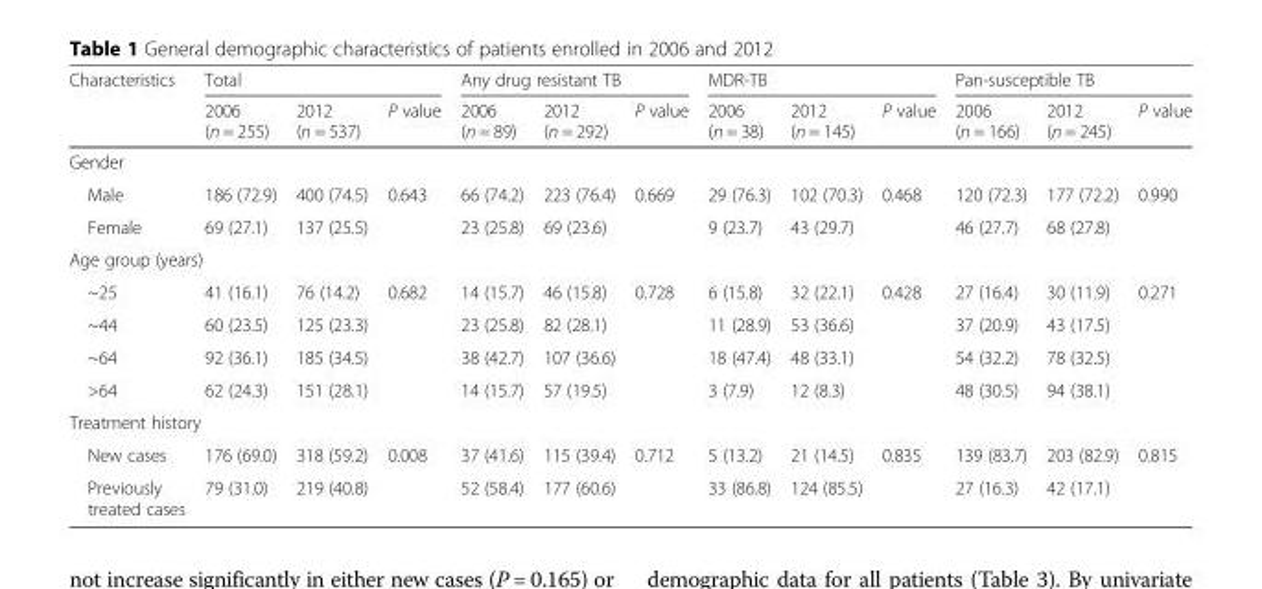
<table><thead><tr><td rowspan="2">Characteristics</td><td colspan="3">Total</td><td colspan="3">Any drug resistant TB</td><td colspan="3">MDR-TB</td><td colspan="3">Pan-susceptible TB</td></tr><tr><td>2006 (n = 255)</td><td>2012 (n = 537)</td><td>P value</td><td>2006 (n = 89)</td><td>2012 (n = 292)</td><td>P value</td><td>2006 (n = 38)</td><td>2012 (n = 145)</td><td>P value</td><td>2006 (n = 166)</td><td>2012 (n = 245)</td><td>P value</td></tr></thead><tbody><tr><td colspan="13">Gender</td></tr><tr><td>Male</td><td>186 (72.9)</td><td>400 (74.5)</td><td rowspan="2">0.643</td><td>66 (74.2)</td><td>223 (76.4)</td><td rowspan="2">0.669</td><td>29 (76.3)</td><td>102 (70.3)</td><td rowspan="2">0.468</td><td>120 (72.3)</td><td>177 (72.2)</td><td rowspan="2">0.990</td></tr><tr><td>Female</td><td>69 (27.1)</td><td>137 (25.5)</td><td>23 (25.8)</td><td>69 (23.6)</td><td>9 (23.7)</td><td>43 (29.7)</td><td>46 (27.7)</td><td>68 (27.8)</td></tr><tr><td colspan="13">Age group (years)</td></tr><tr><td>~25</td><td>41 (16.1)</td><td>76 (14.2)</td><td rowspan="4">0.682</td><td>14 (15.7)</td><td>46 (15.8)</td><td rowspan="4">0.728</td><td>6 (15.8)</td><td>32 (22.1)</td><td rowspan="4">0.428</td><td>27 (16.4)</td><td>30 (11.9)</td><td rowspan="4">0.271</td></tr><tr><td>~44</td><td>60 (23.5)</td><td>125 (23.3)</td><td>23 (25.8)</td><td>82 (28.1)</td><td>11 (28.9)</td><td>53 (36.6)</td><td>37 (20.9)</td><td>43 (17.5)</td></tr><tr><td>~64</td><td>92 (36.1)</td><td>185 (34.5)</td><td>38 (42.7)</td><td>107 (36.6)</td><td>18 (47.4)</td><td>48 (33.1)</td><td>54 (32.2)</td><td>78 (32.5)</td></tr><tr><td>&gt;64</td><td>62 (24.3)</td><td>151 (28.1)</td><td>14 (15.7)</td><td>57 (19.5)</td><td>3 (7.9)</td><td>12 (8.3)</td><td>48 (30.5)</td><td>94 (38.1)</td></tr><tr><td colspan="13">Treatment history</td></tr><tr><td>New cases</td><td>176 (69.0)</td><td>318 (59.2)</td><td rowspan="2">0.008</td><td>37 (41.6)</td><td>115 (39.4)</td><td rowspan="2">0.712</td><td>5 (13.2)</td><td>21 (14.5)</td><td rowspan="2">0.835</td><td>139 (83.7)</td><td>203 (82.9)</td><td rowspan="2">0.815</td></tr><tr><td>Previously treated cases</td><td>79 (31.0)</td><td>219 (40.8)</td><td>52 (58.4)</td><td>177 (60.6)</td><td>33 (86.8)</td><td>124 (85.5)</td><td>27 (16.3)</td><td>42 (17.1)</td></tr></tbody></table>